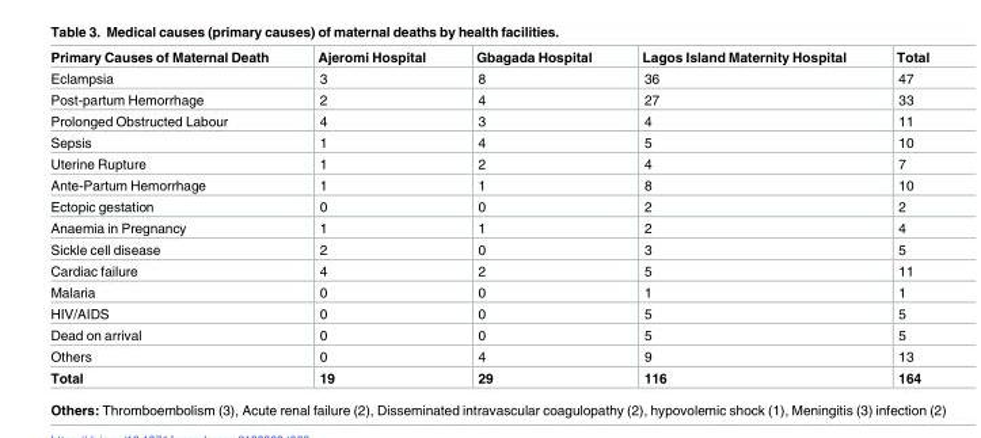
<table><thead><tr><td>Primary Causes of Maternal Death</td><td>Ajeromi Hospital</td><td>Gbagada Hospital</td><td>Lagos Island Maternity Hospital</td><td>Total</td></tr></thead><tbody><tr><td>Eclampsia</td><td>3</td><td>8</td><td>36</td><td>47</td></tr><tr><td>Post-partum Hemorrhage</td><td>2</td><td>4</td><td>27</td><td>33</td></tr><tr><td>Prolonged Obstructed Labour</td><td>4</td><td>3</td><td>4</td><td>11</td></tr><tr><td>Sepsis</td><td>1</td><td>4</td><td>5</td><td>10</td></tr><tr><td>Uterine Rupture</td><td>1</td><td>2</td><td>4</td><td>7</td></tr><tr><td>Ante-Partum Hemorrhage</td><td>1</td><td>1</td><td>8</td><td>10</td></tr><tr><td>Ectopic gestation</td><td>0</td><td>0</td><td>2</td><td>2</td></tr><tr><td>Anaemia in Pregnancy</td><td>1</td><td>1</td><td>2</td><td>4</td></tr><tr><td>Sickle cell disease</td><td>2</td><td>0</td><td>3</td><td>5</td></tr><tr><td>Cardiac failure</td><td>4</td><td>2</td><td>5</td><td>11</td></tr><tr><td>Malaria</td><td>0</td><td>0</td><td>1</td><td>1</td></tr><tr><td>HIV/AIDS</td><td>0</td><td>0</td><td>5</td><td>5</td></tr><tr><td>Dead on arrival</td><td>0</td><td>0</td><td>5</td><td>5</td></tr><tr><td>Others</td><td>0</td><td>4</td><td>9</td><td>13</td></tr><tr><td>Total</td><td>19</td><td>29</td><td>116</td><td>164</td></tr></tbody></table>